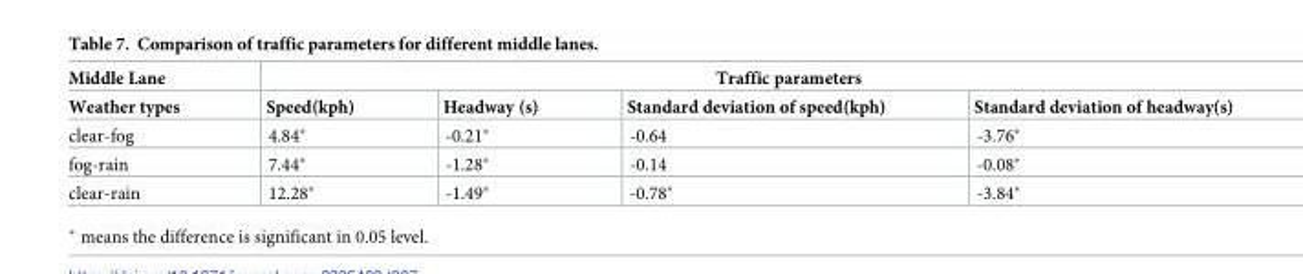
<table><thead><tr><td rowspan="2">Middle Lane Weather types</td><td colspan="4">Traffic parameters</td></tr><tr><td>Speed(kph)</td><td>Headway (s)</td><td>Standard deviation of speed(kph)</td><td>Standard deviation of headway(s)</td></tr></thead><tbody><tr><td>clear-fog</td><td>4.84*</td><td>-0.21*</td><td>-0.64</td><td>-3.76*</td></tr><tr><td>fog-rain</td><td>7.44*</td><td>-1.28*</td><td>-0.14</td><td>-0.08*</td></tr><tr><td>clear-rain</td><td>12.28*</td><td>-1.49*</td><td>-0.78*</td><td>-3.84*</td></tr></tbody></table>